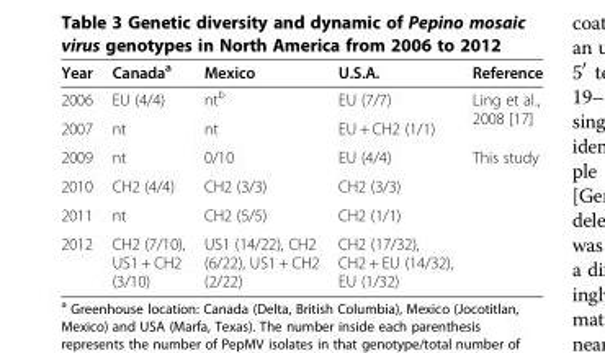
<table><thead><tr><td>Year</td><td>Canada<sup>a</sup></td><td>Mexico</td><td>U.S.A.</td><td>Reference</td></tr></thead><tbody><tr><td>2006</td><td>EU (4/4)</td><td>nt<sup>b</sup></td><td>EU (7/7)</td><td rowspan="2">Ling et al., 2008 [17]</td></tr><tr><td>2007</td><td>nt</td><td>nt</td><td>EU + CH2 (1/1)</td></tr><tr><td>2009</td><td>nt</td><td>0/10</td><td>EU (4/4)</td><td rowspan="4">This study</td></tr><tr><td>2010</td><td>CH2 (4/4)</td><td>CH2 (3/3)</td><td>CH2 (3/3)</td></tr><tr><td>2011</td><td>nt</td><td>CH2 (5/5)</td><td>CH2 (1/1)</td></tr><tr><td>2012</td><td>CH2 (7/10), US1 + CH2 (3/10)</td><td>US1 (14/22), CH2 (6/22), US1 + CH2 (2/22)</td><td>CH2 (17/32), CH2 + EU (14/32), EU (1/32)</td></tr></tbody></table>